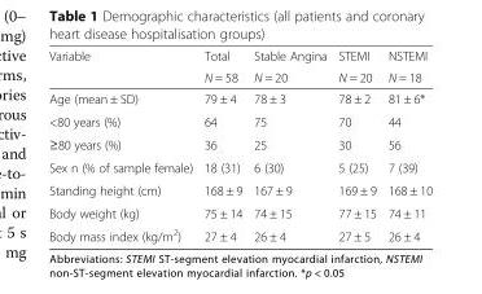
<table><thead><tr><td rowspan="2">Variable</td><td rowspan="2">Total N = 58</td><td rowspan="2">Stable Angina N = 20</td><td rowspan="2">STEMI N = 20</td><td rowspan="2">NSTEMI N = 18</td></tr><tr></tr></thead><tbody><tr><td>Age (mean ± SD)</td><td>79 ± 4</td><td>78 ± 3</td><td>78 ± 2</td><td>81 ± 6*</td></tr><tr><td>&lt;80 years (%)</td><td>64</td><td>75</td><td>70</td><td>44</td></tr><tr><td>≥80 years (%)</td><td>36</td><td>25</td><td>30</td><td>56</td></tr><tr><td>Sex n (% of sample female)</td><td>18 (31)</td><td>6 (30)</td><td>5 (25)</td><td>7 (39)</td></tr><tr><td>Standing height (cm)</td><td>168 ± 9</td><td>167 ± 9</td><td>169 ± 9</td><td>168 ± 10</td></tr><tr><td>Body weight (kg)</td><td>75 ± 14</td><td>74 ± 15</td><td>77 ± 15</td><td>74 ± 11</td></tr><tr><td>Body mass index (kg/m<sup>2</sup>)</td><td>27 ± 4</td><td>26 ± 4</td><td>27 ± 5</td><td>26 ± 4</td></tr></tbody></table>